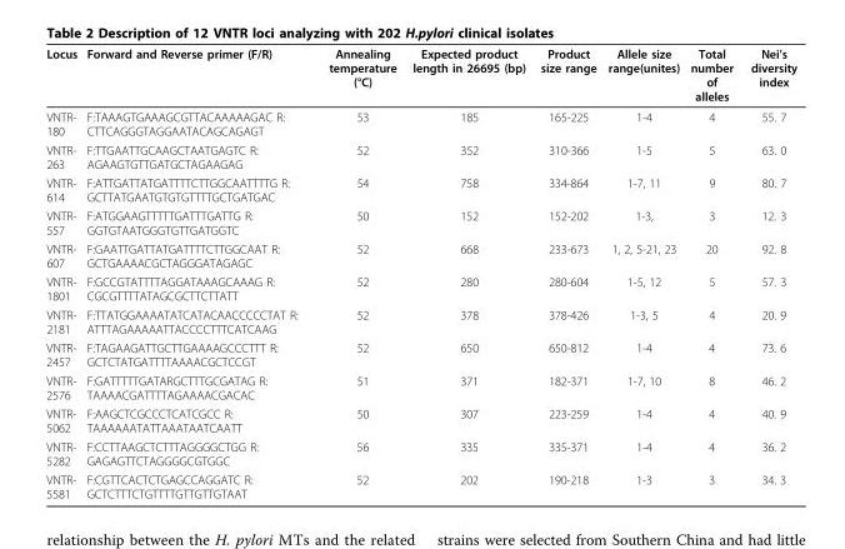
<table><thead><tr><td>Locus</td><td>Forward and Reverse primer (F/R)</td><td>Annealing temperature (°C)</td><td>Expected product length in 26695 (bp)</td><td>Product size range</td><td>Allele size range(unites)</td><td>Total number of alleles</td><td>Nei’s diversity index</td></tr></thead><tbody><tr><td>VNTR- 180</td><td>F:TAAAGTGAAAGCGTTACAAAAAGAC R: CTTCAGGGTAGGAATACAGCAGAGT</td><td>53</td><td>185</td><td>165-225</td><td>1-4</td><td>4</td><td>55. 7</td></tr><tr><td>VNTR- 263</td><td>F:TTGAATTGCAAGCTAATGAGTC R: AGAAGTGTTGATGCTAGAAGAG</td><td>52</td><td>352</td><td>310-366</td><td>1-5</td><td>5</td><td>63. 0</td></tr><tr><td>VNTR- 614</td><td>F:ATTGATTATGATTTTCTTGGCAATTTTG R: GCTTATGAATGTGTGTTTTGCTGATGAC</td><td>54</td><td>758</td><td>334-864</td><td>1-7, 11</td><td>9</td><td>80. 7</td></tr><tr><td>VNTR- 557</td><td>F:ATGGAAGTTTTTGATTTGATTG R: GGTGTAATGGGTGTTGATGGTC</td><td>50</td><td>152</td><td>152-202</td><td>1-3,</td><td>3</td><td>12. 3</td></tr><tr><td>VNTR- 607</td><td>F:GAATTGATTATGATTTTCTTGGCAAT R: GCTGAAAACGCTAGGGATAGAGC</td><td>52</td><td>668</td><td>233-673</td><td>1, 2, 5-21, 23</td><td>20</td><td>92. 8</td></tr><tr><td>VNTR- 1801</td><td>F:GCCGTATTTTAGGATAAAGCAAAG R: CGCGTTTTATAGCGCTTCTTATT</td><td>52</td><td>280</td><td>280-604</td><td>1-5, 12</td><td>5</td><td>57. 3</td></tr><tr><td>VNTR- 2181</td><td>F:TTATGGAAAATATCATACAACCCCCTAT R: ATTTAGAAAAATTACCCCTTTCATCAAG</td><td>52</td><td>378</td><td>378-426</td><td>1-3, 5</td><td>4</td><td>20. 9</td></tr><tr><td>VNTR- 2457</td><td>F:TAGAAGATTGCTTGAAAAGCCCTTT R: GCTCTATGATTTTAAAACGCTCCGT</td><td>52</td><td>650</td><td>650-812</td><td>1-4</td><td>4</td><td>73. 6</td></tr><tr><td>VNTR- 2576</td><td>F:GATTTTTGATARGCTTTGCGATAG R: TAAAACGATTTTAGAAAACGACAC</td><td>51</td><td>371</td><td>182-371</td><td>1-7, 10</td><td>8</td><td>46. 2</td></tr><tr><td>VNTR- 5062</td><td>F:AAGCTCGCCCTCATCGCC R: TAAAAAATATTAAATAATCAATT</td><td>50</td><td>307</td><td>223-259</td><td>1-4</td><td>4</td><td>40. 9</td></tr><tr><td>VNTR- 5282</td><td>F:CCTTAAGCTCTTTAGGGGCTGG R: GAGAGTTCTAGGGGCGTGGC</td><td>56</td><td>335</td><td>335-371</td><td>1-4</td><td>4</td><td>36. 2</td></tr><tr><td>VNTR- 5581</td><td>F:CGTTCACTCTGAGCCAGGATC R: GCTCTTTCTGTTTTGTTGTTGTAAT</td><td>52</td><td>202</td><td>190-218</td><td>1-3</td><td>3</td><td>34. 3</td></tr></tbody></table>